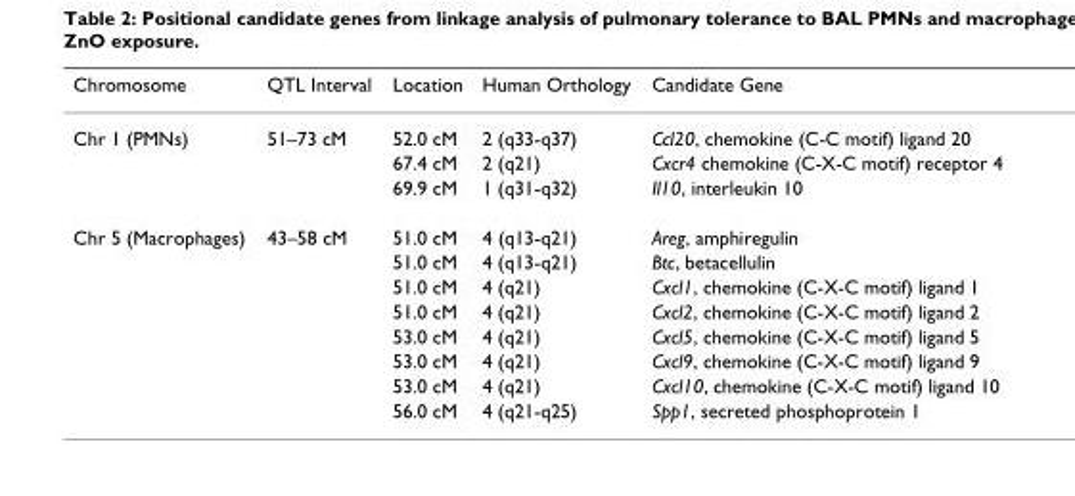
<table><thead><tr><td>Chromosome</td><td>QTL Interval</td><td>Location</td><td>Human Orthology</td><td>Candidate Gene</td></tr></thead><tbody><tr><td rowspan="3">Chr 1 (PMNs)</td><td>51–73 cM</td><td>52.0 cM</td><td>2 (q33-q37)</td><td>Ccl20, chemokine (C-C motif) ligand 20</td></tr><tr><td></td><td>67.4 cM</td><td>2 (q21)</td><td>Cxcr4 chemokine (C-X-C motif) receptor 4</td></tr><tr><td></td><td>69.9 cM</td><td>1 (q31-q32)</td><td>Il10, interleukin 10</td></tr><tr><td rowspan="8">Chr 5 (Macrophages)</td><td>43–58 cM</td><td>51.0 cM</td><td>4 (q13-q21)</td><td>Areg, amphiregulin</td></tr><tr><td></td><td>51.0 cM</td><td>4 (q13-q21)</td><td>Btc, betacellulin</td></tr><tr><td></td><td>51.0 cM</td><td>4 (q21)</td><td>Cxcl1, chemokine (C-X-C motif) ligand 1</td></tr><tr><td></td><td>51.0 cM</td><td>4 (q21)</td><td>Cxcl2, chemokine (C-X-C motif) ligand 2</td></tr><tr><td></td><td>53.0 cM</td><td>4 (q21)</td><td>Cxcl5, chemokine (C-X-C motif) ligand 5</td></tr><tr><td></td><td>53.0 cM</td><td>4 (q21)</td><td>Cxcl9, chemokine (C-X-C motif) ligand 9</td></tr><tr><td></td><td>53.0 cM</td><td>4 (q21)</td><td>Cxcl10, chemokine (C-X-C motif) ligand 10</td></tr><tr><td></td><td>56.0 cM</td><td>4 (q21-q25)</td><td>Spp1, secreted phosphoprotein 1</td></tr></tbody></table>